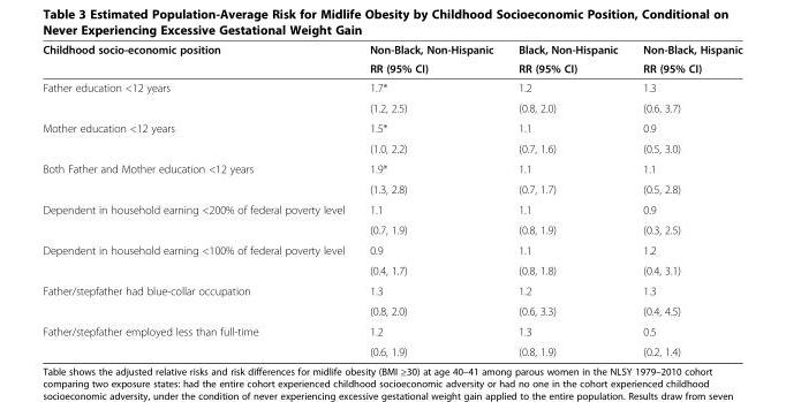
<table><thead><tr><td rowspan="2">Childhood socio-economic position</td><td rowspan="2">Non-Black, Non-Hispanic RR (95% CI)</td><td rowspan="2">Black, Non-Hispanic RR (95% CI)</td><td rowspan="2">Non-Black, Hispanic RR (95% CI)</td></tr><tr></tr></thead><tbody><tr><td rowspan="2">Father education &lt;12 years</td><td>1.7*</td><td>1.2</td><td>1.3</td></tr><tr><td>(1.2, 2.5)</td><td>(0.8, 2.0)</td><td>(0.6, 3.7)</td></tr><tr><td rowspan="2">Mother education &lt;12 years</td><td>1.5*</td><td>1.1</td><td>0.9</td></tr><tr><td>(1.0, 2.2)</td><td>(0.7, 1.6)</td><td>(0.5, 3.0)</td></tr><tr><td rowspan="2">Both Father and Mother education &lt;12 years</td><td>1.9*</td><td>1.1</td><td>1.1</td></tr><tr><td>(1.3, 2.8)</td><td>(0.7, 1.7)</td><td>(0.5, 2.8)</td></tr><tr><td rowspan="2">Dependent in household earning &lt;200% of federal poverty level</td><td>1.1</td><td>1.1</td><td>0.9</td></tr><tr><td>(0.7, 1.9)</td><td>(0.8, 1.9)</td><td>(0.3, 2.5)</td></tr><tr><td rowspan="2">Dependent in household earning &lt;100% of federal poverty level</td><td>0.9</td><td>1.1</td><td>1.2</td></tr><tr><td>(0.4, 1.7)</td><td>(0.8, 1.8)</td><td>(0.4, 3.1)</td></tr><tr><td rowspan="2">Father/stepfather had blue-collar occupation</td><td>1.3</td><td>1.2</td><td>1.3</td></tr><tr><td>(0.8, 2.0)</td><td>(0.6, 3.3)</td><td>(0.4, 4.5)</td></tr><tr><td rowspan="2">Father/stepfather employed less than full-time</td><td>1.2</td><td>1.3</td><td>0.5</td></tr><tr><td>(0.6, 1.9)</td><td>(0.8, 1.9)</td><td>(0.2, 1.4)</td></tr></tbody></table>